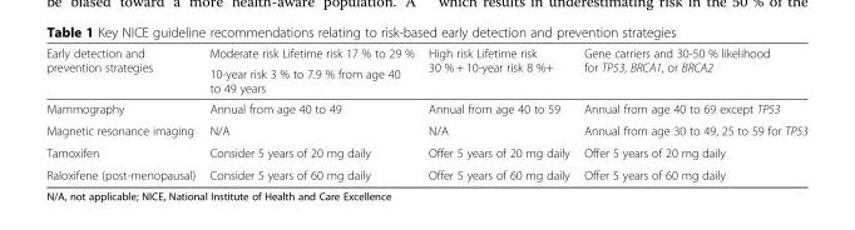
<table><thead><tr><td rowspan="2">Early detection and prevention strategies</td><td rowspan="2">Moderate risk Lifetime risk 17 % to 29 % 10-year risk 3 % to 7.9 % from age 40 to 49 years</td><td rowspan="2">High risk Lifetime risk 30 % + 10-year risk 8 %+</td><td rowspan="2">Gene carriers and 30-50 % likelihood for TP53, BRCA1, or BRCA2</td></tr><tr></tr></thead><tbody><tr><td>Mammography</td><td>Annual from age 40 to 49</td><td>Annual from age 40 to 59</td><td>Annual from age 40 to 69 except TP53</td></tr><tr><td>Magnetic resonance imaging</td><td>N/A</td><td>N/A</td><td>Annual from age 30 to 49, 25 to 59 for TP53</td></tr><tr><td>Tamoxifen</td><td>Consider 5 years of 20 mg daily</td><td>Offer 5 years of 20 mg daily</td><td>Offer 5 years of 20 mg daily</td></tr><tr><td>Raloxifene (post-menopausal)</td><td>Consider 5 years of 60 mg daily</td><td>Offer 5 years of 60 mg daily</td><td>Offer 5 years of 60 mg daily</td></tr></tbody></table>